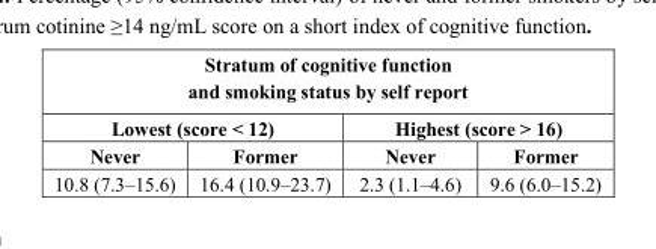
<table><thead><tr><td colspan="4">Stratum of cognitive function and smoking status by self report</td></tr><tr><td colspan="2">Lowest (score &lt; 12)</td><td colspan="2">Highest (score &gt; 16)</td></tr><tr><td>Never</td><td>Former</td><td>Never</td><td>Former</td></tr></thead><tbody><tr><td>10.8 (7.3–15.6)</td><td>16.4 (10.9–23.7)</td><td>2.3 (1.1–4.6)</td><td>9.6 (6.0–15.2)</td></tr></tbody></table>